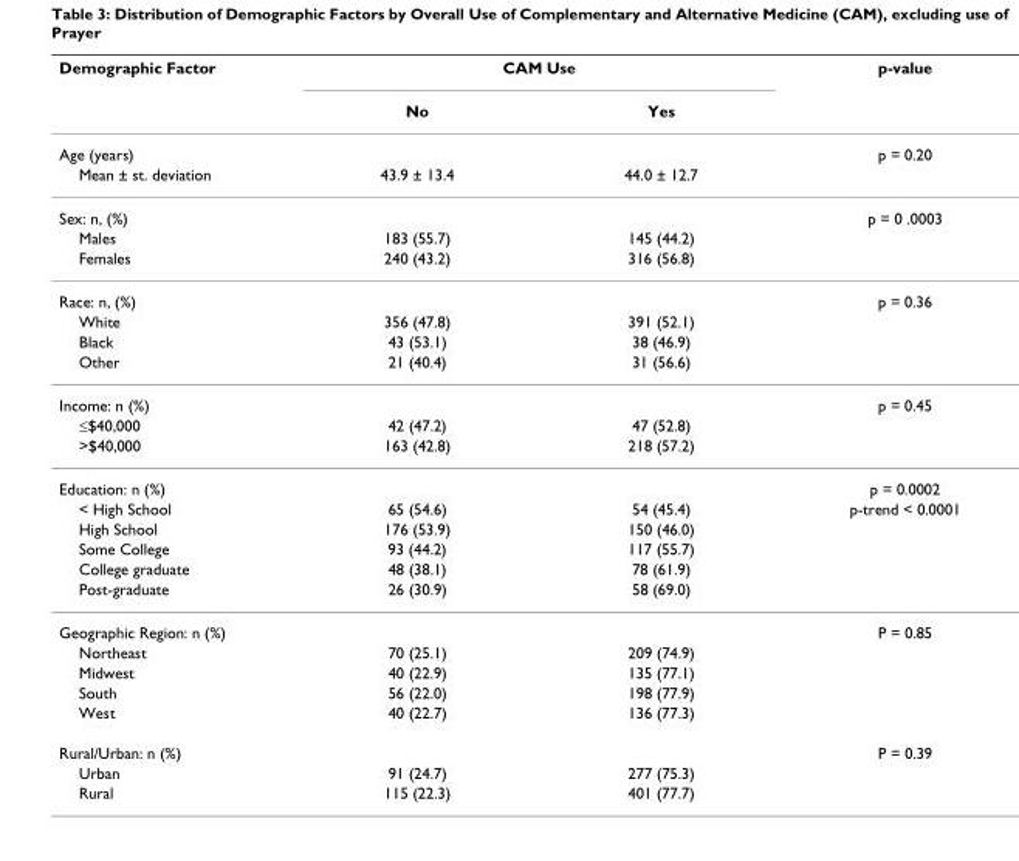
<table><thead><tr><td rowspan="2">Demographic Factor</td><td colspan="2">CAM Use</td><td rowspan="2">p-value</td></tr><tr><td>No</td><td>Yes</td></tr></thead><tbody><tr><td>Age (years)</td><td></td><td></td><td>p = 0.20</td></tr><tr><td>Mean ± st. deviation</td><td>43.9 ± 13.4</td><td>44.0 ± 12.7</td><td></td></tr><tr><td>Sex: n, (%)</td><td></td><td></td><td>p = 0 .0003</td></tr><tr><td>Males</td><td>183 (55.7)</td><td>145 (44.2)</td><td></td></tr><tr><td>Females</td><td>240 (43.2)</td><td>316 (56.8)</td><td></td></tr><tr><td>Race: n, (%)</td><td></td><td></td><td>p = 0.36</td></tr><tr><td>White</td><td>356 (47.8)</td><td>391 (52.1)</td><td></td></tr><tr><td>Black</td><td>43 (53.1)</td><td>38 (46.9)</td><td></td></tr><tr><td>Other</td><td>21 (40.4)</td><td>31 (56.6)</td><td></td></tr><tr><td>Income: n (%)</td><td></td><td></td><td>p = 0.45</td></tr><tr><td>≤$40,000</td><td>42 (47.2)</td><td>47 (52.8)</td><td></td></tr><tr><td>&gt;$40,000</td><td>163 (42.8)</td><td>218 (57.2)</td><td></td></tr><tr><td>Education: n (%)</td><td></td><td></td><td>p = 0.0002</td></tr><tr><td>&lt; High School</td><td>65 (54.6)</td><td>54 (45.4)</td><td>p-trend &lt; 0.0001</td></tr><tr><td>High School</td><td>176 (53.9)</td><td>150 (46.0)</td><td></td></tr><tr><td>Some College</td><td>93 (44.2)</td><td>117 (55.7)</td><td></td></tr><tr><td>College graduate</td><td>48 (38.1)</td><td>78 (61.9)</td><td></td></tr><tr><td>Post-graduate</td><td>26 (30.9)</td><td>58 (69.0)</td><td></td></tr><tr><td>Geographic Region: n (%)</td><td></td><td></td><td>P = 0.85</td></tr><tr><td>Northeast</td><td>70 (25.1)</td><td>209 (74.9)</td><td></td></tr><tr><td>Midwest</td><td>40 (22.9)</td><td>135 (77.1)</td><td></td></tr><tr><td>South</td><td>56 (22.0)</td><td>198 (77.9)</td><td></td></tr><tr><td>West</td><td>40 (22.7)</td><td>136 (77.3)</td><td></td></tr><tr><td>Rural/Urban: n (%)</td><td></td><td></td><td>P = 0.39</td></tr><tr><td>Urban</td><td>91 (24.7)</td><td>277 (75.3)</td><td></td></tr><tr><td>Rural</td><td>115 (22.3)</td><td>401 (77.7)</td><td></td></tr></tbody></table>